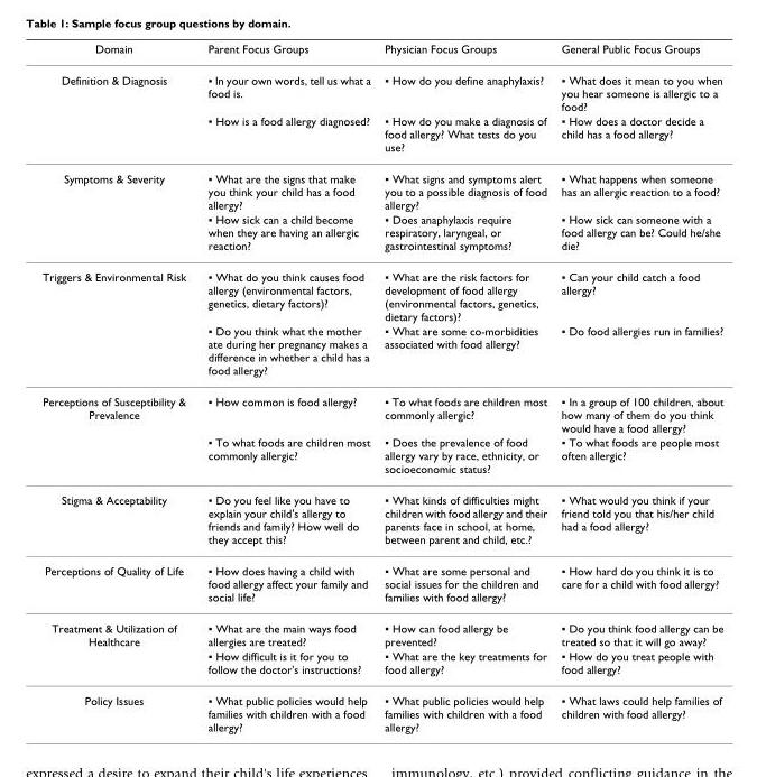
<table><thead><tr><td>Domain</td><td>Parent Focus Groups</td><td>Physician Focus Groups</td><td>General Public Focus Groups</td></tr></thead><tbody><tr><td rowspan="2">Definition &amp; Diagnosis</td><td>▪ In your own words, tell us what a food is.</td><td>▪ How do you define anaphylaxis?</td><td>▪ What does it mean to you when you hear someone is allergic to a food?</td></tr><tr><td>▪ How is a food allergy diagnosed?</td><td>▪ How do you make a diagnosis of food allergy? What tests do you use?</td><td>▪ How does a doctor decide a child has a food allergy?</td></tr><tr><td rowspan="2">Symptoms &amp; Severity</td><td>▪ What are the signs that make you think your child has a food allergy?</td><td>▪ What signs and symptoms alert you to a possible diagnosis of food allergy?</td><td>▪ What happens when someone has an allergic reaction to a food?</td></tr><tr><td>▪ How sick can a child become when they are having an allergic reaction?</td><td>▪ Does anaphylaxis require respiratory, laryngeal, or gastrointestinal symptoms?</td><td>▪ How sick can someone with a food allergy can be? Could he/she die?</td></tr><tr><td rowspan="2">Triggers &amp; Environmental Risk</td><td>▪ What do you think causes food allergy (environmental factors, genetics, dietary factors)?</td><td>▪ What are the risk factors for development of food allergy (environmental factors, genetics, dietary factors)?</td><td>▪ Can your child catch a food allergy?</td></tr><tr><td>▪ Do you think what the mother ate during her pregnancy makes a difference in whether a child has a food allergy?</td><td>▪ What are some co-morbidities associated with food allergy?</td><td>▪ Do food allergies run in families?</td></tr><tr><td rowspan="2">Perceptions of Susceptibility &amp; Prevalence</td><td>▪ How common is food allergy?</td><td>▪ To what foods are children most commonly allergic?</td><td>▪ In a group of 100 children, about how many of them do you think would have a food allergy?</td></tr><tr><td>▪ To what foods are children most commonly allergic?</td><td>▪ Does the prevalence of food allergy vary by race, ethnicity, or socioeconomic status?</td><td>▪ To what foods are people most often allergic?</td></tr><tr><td>Stigma &amp; Acceptability</td><td>▪ Do you feel like you have to explain your child&#x27;s allergy to friends and family? How well do they accept this?</td><td>▪ What kinds of difficulties might children with food allergy and their parents face in school, at home, between parent and child, etc.?</td><td>▪ What would you think if your friend told you that his/her child had a food allergy?</td></tr><tr><td>Perceptions of Quality of Life</td><td>▪ How does having a child with food allergy affect your family and social life?</td><td>▪ What are some personal and social issues for the children and families with food allergy?</td><td>▪ How hard do you think it is to care for a child with food allergy?</td></tr><tr><td rowspan="2">Treatment &amp; Utilization of Healthcare</td><td>▪ What are the main ways food allergies are treated?</td><td>▪ How can food allergy be prevented?</td><td>▪ Do you think food allergy can be treated so that it will go away?</td></tr><tr><td>▪ How difficult is it for you to follow the doctor&#x27;s instructions?</td><td>▪ What are the key treatments for food allergy?</td><td>▪ How do you treat people with food allergy?</td></tr><tr><td>Policy Issues</td><td>▪ What public policies would help families with children with a food allergy?</td><td>▪ What public policies would help families with children with a food allergy?</td><td>▪ What laws could help families of children with food allergy?</td></tr></tbody></table>